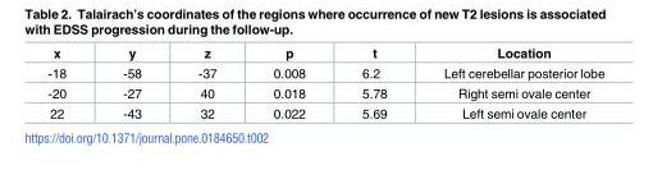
<table><thead><tr><td>x</td><td>y</td><td>z</td><td>p</td><td>t</td><td>Location</td></tr></thead><tbody><tr><td>-18</td><td>-58</td><td>-37</td><td>0.008</td><td>6.2</td><td>Left cerebellar posterior lobe</td></tr><tr><td>-20</td><td>-27</td><td>40</td><td>0.018</td><td>5.78</td><td>Right semi ovale center</td></tr><tr><td>22</td><td>-43</td><td>32</td><td>0.022</td><td>5.69</td><td>Left semi ovale center</td></tr></tbody></table>